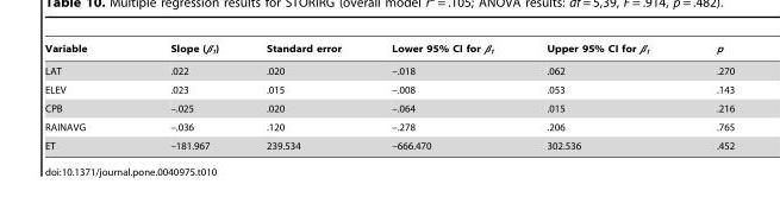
<table><thead><tr><td>Variable</td><td>Slope (β<sub>1</sub>)</td><td>Standard error</td><td>Lower 95% CI for β<sub>1</sub></td><td>Upper 95% CI for β<sub>1</sub></td><td>p</td></tr></thead><tbody><tr><td>LAT</td><td>.022</td><td>.020</td><td>–.018</td><td>.062</td><td>.270</td></tr><tr><td>ELEV</td><td>.023</td><td>.015</td><td>–.008</td><td>.053</td><td>.143</td></tr><tr><td>CPB</td><td>–.025</td><td>.020</td><td>–.064</td><td>.015</td><td>.216</td></tr><tr><td>RAINAVG</td><td>–.036</td><td>.120</td><td>–.278</td><td>.206</td><td>.765</td></tr><tr><td>ET</td><td>–181.967</td><td>239.534</td><td>–666.470</td><td>302.536</td><td>.452</td></tr></tbody></table>